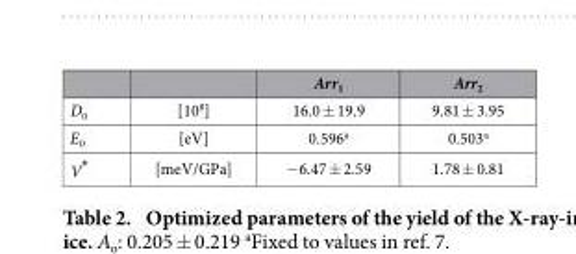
<table><thead><tr><td></td><td></td><td>Arr<sub>1</sub></td><td>Arr<sub>2</sub></td></tr></thead><tbody><tr><td>D<sub>0</sub></td><td>[10<sup>8</sup>]</td><td>16.0 ± 19.9</td><td>9.81 ± 3.95</td></tr><tr><td>E<sub>0</sub></td><td>[eV]</td><td>0.596<sup>a</sup></td><td>0.503<sup>a</sup></td></tr><tr><td>V*</td><td>[meV/GPa]</td><td>− 6.47 ± 2.59</td><td>1.78 ± 0.81</td></tr></tbody></table>